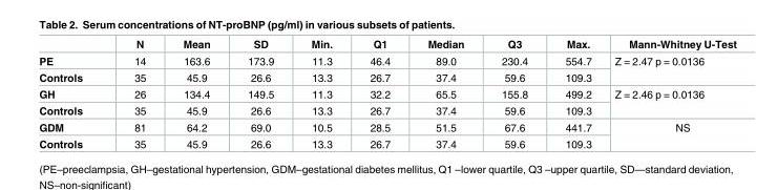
<table><thead><tr><td></td><td>N</td><td>Mean</td><td>SD</td><td>Min.</td><td>Q1</td><td>Median</td><td>Q3</td><td>Max.</td><td>Mann-Whitney U-Test</td></tr></thead><tbody><tr><td>PE</td><td>14</td><td>163.6</td><td>173.9</td><td>11.3</td><td>46.4</td><td>89.0</td><td>230.4</td><td>554.7</td><td rowspan="2">Z = 2.47 p = 0.0136</td></tr><tr><td>Controls</td><td>35</td><td>45.9</td><td>26.6</td><td>13.3</td><td>26.7</td><td>37.4</td><td>59.6</td><td>109.3</td></tr><tr><td>GH</td><td>26</td><td>134.4</td><td>149.5</td><td>11.3</td><td>32.2</td><td>65.5</td><td>155.8</td><td>499.2</td><td rowspan="2">Z = 2.46 p = 0.0136</td></tr><tr><td>Controls</td><td>35</td><td>45.9</td><td>26.6</td><td>13.3</td><td>26.7</td><td>37.4</td><td>59.6</td><td>109.3</td></tr><tr><td>GDM</td><td>81</td><td>64.2</td><td>69.0</td><td>10.5</td><td>28.5</td><td>51.5</td><td>67.6</td><td>441.7</td><td rowspan="2">NS</td></tr><tr><td>Controls</td><td>35</td><td>45.9</td><td>26.6</td><td>13.3</td><td>26.7</td><td>37.4</td><td>59.6</td><td>109.3</td></tr></tbody></table>